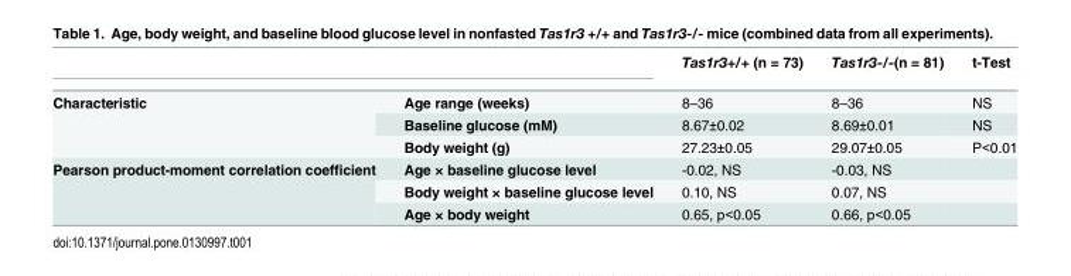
<table><thead><tr><td></td><td></td><td>Tas1r3+/+ (n = 73)</td><td>Tas1r3-/-(n = 81)</td><td>t-Test</td></tr></thead><tbody><tr><td rowspan="3">Characteristic</td><td>Age range (weeks)</td><td>8–36</td><td>8–36</td><td>NS</td></tr><tr><td>Baseline glucose (mM)</td><td>8.67±0.02</td><td>8.69±0.01</td><td>NS</td></tr><tr><td>Body weight (g)</td><td>27.23±0.05</td><td>29.07±0.05</td><td>P&lt;0.01</td></tr><tr><td rowspan="3">Pearson product-moment correlation coefficient</td><td>Age × baseline glucose level</td><td>-0.02, NS</td><td>-0.03, NS</td><td></td></tr><tr><td>Body weight × baseline glucose level</td><td>0.10, NS</td><td>0.07, NS</td><td></td></tr><tr><td>Age × body weight</td><td>0.65, p&lt;0.05</td><td>0.66, p&lt;0.05</td><td></td></tr></tbody></table>